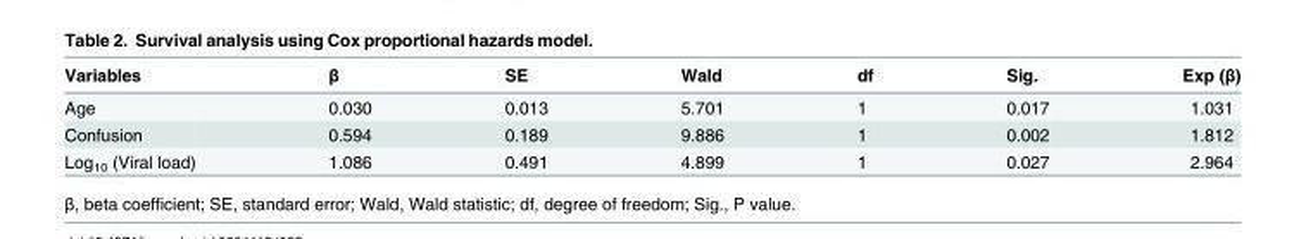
<table><thead><tr><td>Variables</td><td>β</td><td>SE</td><td>Wald</td><td>df</td><td>Sig.</td><td>Exp (β)</td></tr></thead><tbody><tr><td>Age</td><td>0.030</td><td>0.013</td><td>5.701</td><td>1</td><td>0.017</td><td>1.031</td></tr><tr><td>Confusion</td><td>0.594</td><td>0.189</td><td>9.886</td><td>1</td><td>0.002</td><td>1.812</td></tr><tr><td>Log<sub>10</sub> (Viral load)</td><td>1.086</td><td>0.491</td><td>4.899</td><td>1</td><td>0.027</td><td>2.964</td></tr></tbody></table>